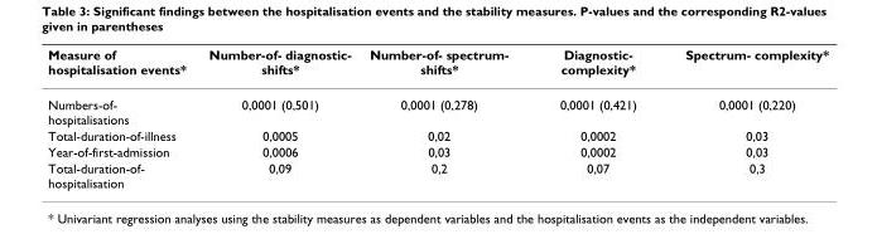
<table><thead><tr><td>Measure of hospitalisation events*</td><td>Number-of- diagnostic- shifts*</td><td>Number-of- spectrum- shifts*</td><td>Diagnostic- complexity*</td><td>Spectrum- complexity*</td></tr></thead><tbody><tr><td>Numbers-of- hospitalisations</td><td>0,0001 (0,501)</td><td>0,0001 (0,278)</td><td>0,0001 (0,421)</td><td>0,0001 (0,220)</td></tr><tr><td>Total-duration-of-illness</td><td>0,0005</td><td>0,02</td><td>0,0002</td><td>0,03</td></tr><tr><td>Year-of-first-admission</td><td>0,0006</td><td>0,03</td><td>0,0002</td><td>0,03</td></tr><tr><td>Total-duration-of- hospitalisation</td><td>0,09</td><td>0,2</td><td>0,07</td><td>0,3</td></tr></tbody></table>